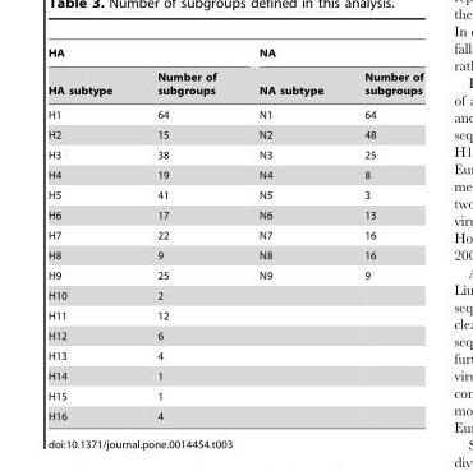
<table><thead><tr><td colspan="2">HA</td><td colspan="2">NA</td></tr><tr><td>HA subtype</td><td>Number of subgroups</td><td>NA subtype</td><td>Number of subgroups</td></tr></thead><tbody><tr><td>H1</td><td>64</td><td>N1</td><td>64</td></tr><tr><td>H2</td><td>15</td><td>N2</td><td>48</td></tr><tr><td>H3</td><td>38</td><td>N3</td><td>25</td></tr><tr><td>H4</td><td>19</td><td>N4</td><td>8</td></tr><tr><td>H5</td><td>41</td><td>N5</td><td>3</td></tr><tr><td>H6</td><td>17</td><td>N6</td><td>13</td></tr><tr><td>H7</td><td>22</td><td>N7</td><td>16</td></tr><tr><td>H8</td><td>9</td><td>N8</td><td>16</td></tr><tr><td>H9</td><td>25</td><td>N9</td><td>9</td></tr><tr><td>H10</td><td>2</td><td></td><td></td></tr><tr><td>H11</td><td>12</td><td></td><td></td></tr><tr><td>H12</td><td>6</td><td></td><td></td></tr><tr><td>H13</td><td>4</td><td></td><td></td></tr><tr><td>H14</td><td>1</td><td></td><td></td></tr><tr><td>H15</td><td>1</td><td></td><td></td></tr><tr><td>H16</td><td>4</td><td></td><td></td></tr></tbody></table>